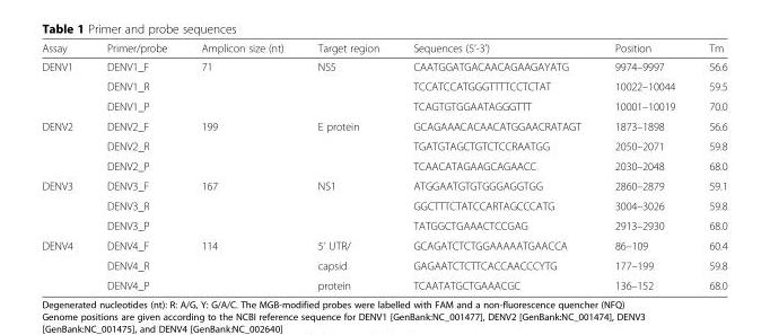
<table><thead><tr><td>Assay</td><td>Primer/probe</td><td>Amplicon size (nt)</td><td>Target region</td><td>Sequences (5’-3’)</td><td>Position</td><td>Tm</td></tr></thead><tbody><tr><td rowspan="3">DENV1</td><td>DENV1_F</td><td>71</td><td>NS5</td><td>CAATGGATGACAACAGAAGAYATG</td><td>9974–9997</td><td>56.6</td></tr><tr><td>DENV1_R</td><td></td><td></td><td>TCCATCCATGGGTTTTCCTCTAT</td><td>10022–10044</td><td>59.5</td></tr><tr><td>DENV1_P</td><td></td><td></td><td>TCAGTGTGGAATAGGGTTT</td><td>10001–10019</td><td>70.0</td></tr><tr><td rowspan="3">DENV2</td><td>DENV2_F</td><td>199</td><td>E protein</td><td>GCAGAAACACAACATGGAACRATAGT</td><td>1873–1898</td><td>56.6</td></tr><tr><td>DENV2_R</td><td></td><td></td><td>TGATGTAGCTGTCTCCRAATGG</td><td>2050–2071</td><td>59.8</td></tr><tr><td>DENV2_P</td><td></td><td></td><td>TCAACATAGAAGCAGAACC</td><td>2030–2048</td><td>68.0</td></tr><tr><td rowspan="3">DENV3</td><td>DENV3_F</td><td>167</td><td>NS1</td><td>ATGGAATGTGTGGGAGGTGG</td><td>2860–2879</td><td>59.1</td></tr><tr><td>DENV3_R</td><td></td><td></td><td>GGCTTTCTATCCARTAGCCCATG</td><td>3004–3026</td><td>59.8</td></tr><tr><td>DENV3_P</td><td></td><td></td><td>TATGGCTGAAACTCCGAG</td><td>2913–2930</td><td>68.0</td></tr><tr><td rowspan="3">DENV4</td><td>DENV4_F</td><td>114</td><td>5’ UTR/</td><td>GCAGATCTCTGGAAAAATGAACCA</td><td>86–109</td><td>60.4</td></tr><tr><td>DENV4_R</td><td></td><td>capsid</td><td>GAGAATCTCTTCACCAACCCYTG</td><td>177–199</td><td>59.8</td></tr><tr><td>DENV4_P</td><td></td><td>protein</td><td>TCAATATGCTGAAACGC</td><td>136–152</td><td>68.0</td></tr></tbody></table>